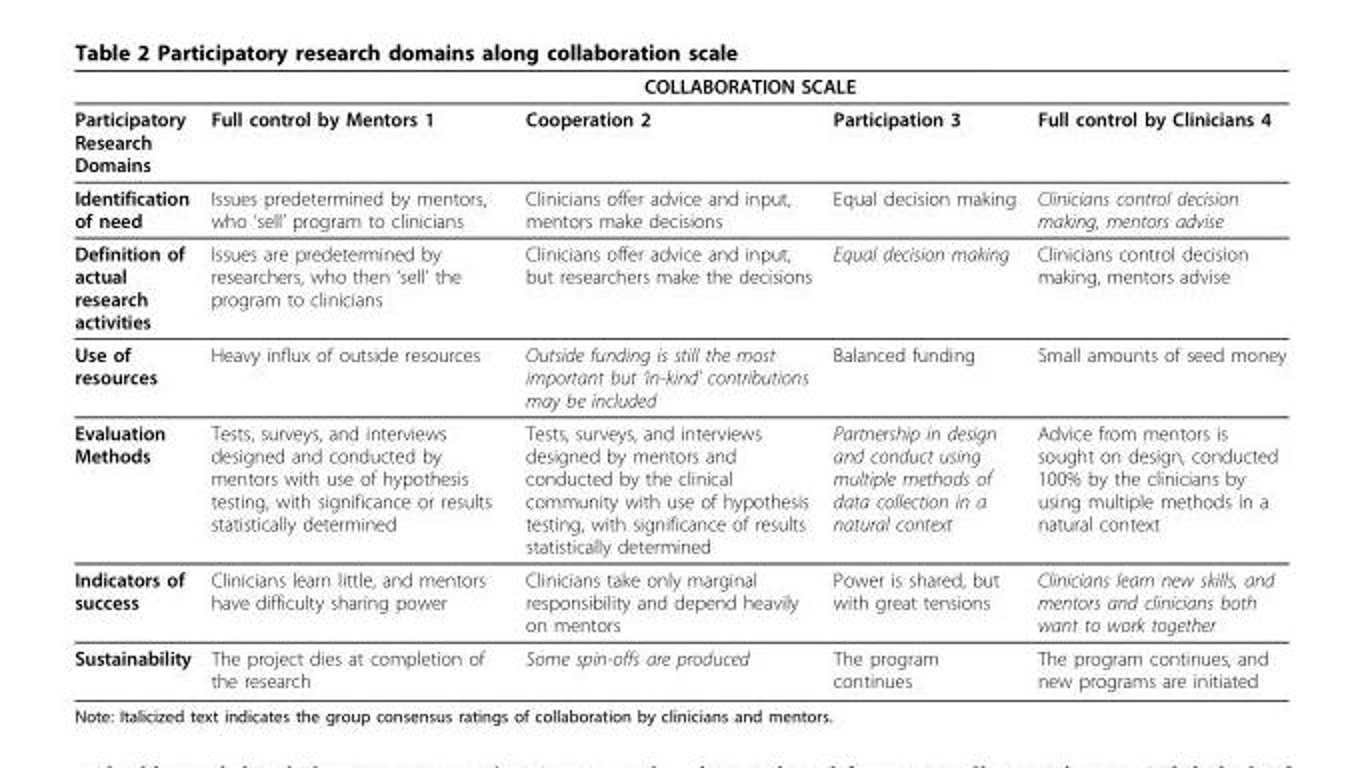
<table><thead><tr><td rowspan="2">Participatory Research Domains</td><td colspan="4">COLLABORATION SCALE</td></tr><tr><td>Full control by Mentors 1</td><td>Cooperation 2</td><td>Participation 3</td><td>Full control by Clinicians 4</td></tr></thead><tbody><tr><td>Identification of need</td><td>Issues predetermined by mentors, who ‘sell’ program to clinicians</td><td>Clinicians offer advice and input, mentors make decisions</td><td>Equal decision making</td><td>Clinicians control decision making, mentors advise</td></tr><tr><td>Definition of actual research activities</td><td>Issues are predetermined by researchers, who then ‘sell’ the program to clinicians</td><td>Clinicians offer advice and input, but researchers make the decisions</td><td>Equal decision making</td><td>Clinicians control decision making, mentors advise</td></tr><tr><td>Use of resources</td><td>Heavy influx of outside resources</td><td>Outside funding is still the most important but ‘in-kind’ contributions may be included</td><td>Balanced funding</td><td>Small amounts of seed money</td></tr><tr><td>Evaluation Methods</td><td>Tests, surveys, and interviews designed and conducted by mentors with use of hypothesis testing, with significance or results statistically determined</td><td>Tests, surveys, and interviews designed by mentors and conducted by the clinical community with use of hypothesis testing, with significance of results statistically determined</td><td>Partnership in design and conduct using multiple methods of data collection in a natural context</td><td>Advice from mentors is sought on design, conducted 100% by the clinicians by using multiple methods in a natural context</td></tr><tr><td>Indicators of success</td><td>Clinicians learn little, and mentors have difficulty sharing power</td><td>Clinicians take only marginal responsibility and depend heavily on mentors</td><td>Power is shared, but with great tensions</td><td>Clinicians learn new skills, and mentors and clinicians both want to work together</td></tr><tr><td>Sustainability</td><td>The project dies at completion of the research</td><td>Some spin-offs are produced</td><td>The program continues</td><td>The program continues, and new programs are initiated</td></tr></tbody></table>